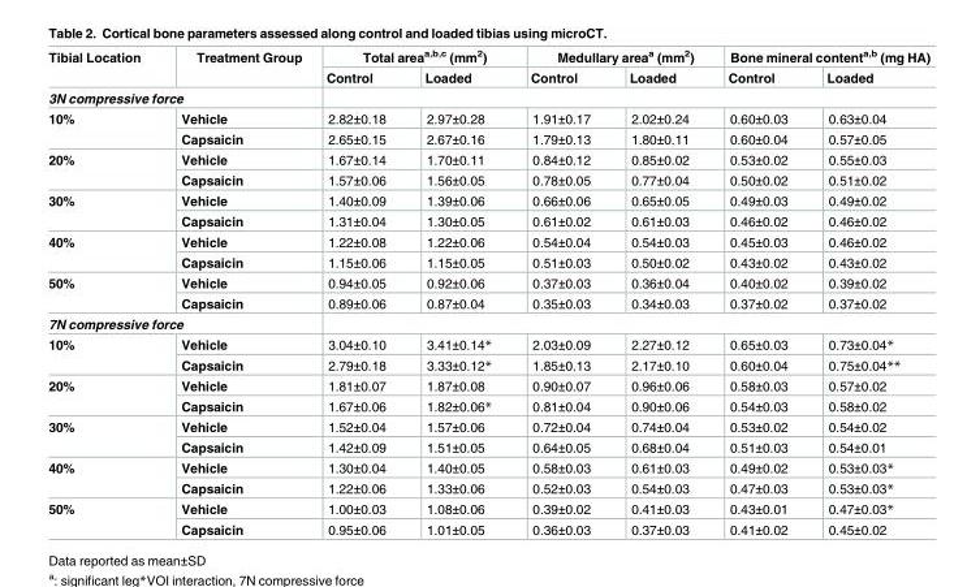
<table><thead><tr><td rowspan="2">Tibial Location</td><td rowspan="2">Treatment Group</td><td colspan="2">Total area<sup>a,b,c</sup> (mm<sup>2</sup>)</td><td colspan="2">Medullary area<sup>a</sup> (mm<sup>2</sup>)</td><td colspan="2">Bone mineral content<sup>a,b</sup> (mg HA)</td></tr><tr><td>Control</td><td>Loaded</td><td>Control</td><td>Loaded</td><td>Control</td><td>Loaded</td></tr></thead><tbody><tr><td colspan="8">3N compressive force</td></tr><tr><td rowspan="2">10%</td><td>Vehicle</td><td>2.82±0.18</td><td>2.97±0.28</td><td>1.91±0.17</td><td>2.02±0.24</td><td>0.60±0.03</td><td>0.63±0.04</td></tr><tr><td>Capsaicin</td><td>2.65±0.15</td><td>2.67±0.16</td><td>1.79±0.13</td><td>1.80±0.11</td><td>0.60±0.04</td><td>0.57±0.05</td></tr><tr><td rowspan="2">20%</td><td>Vehicle</td><td>1.67±0.14</td><td>1.70±0.11</td><td>0.84±0.12</td><td>0.85±0.02</td><td>0.53±0.02</td><td>0.55±0.03</td></tr><tr><td>Capsaicin</td><td>1.57±0.06</td><td>1.56±0.05</td><td>0.78±0.05</td><td>0.77±0.04</td><td>0.50±0.02</td><td>0.51±0.02</td></tr><tr><td rowspan="2">30%</td><td>Vehicle</td><td>1.40±0.09</td><td>1.39±0.06</td><td>0.66±0.06</td><td>0.65±0.05</td><td>0.49±0.03</td><td>0.49±0.02</td></tr><tr><td>Capsaicin</td><td>1.31±0.04</td><td>1.30±0.05</td><td>0.61±0.02</td><td>0.61±0.03</td><td>0.46±0.02</td><td>0.46±0.02</td></tr><tr><td rowspan="2">40%</td><td>Vehicle</td><td>1.22±0.08</td><td>1.22±0.06</td><td>0.54±0.04</td><td>0.54±0.03</td><td>0.45±0.03</td><td>0.46±0.02</td></tr><tr><td>Capsaicin</td><td>1.15±0.06</td><td>1.15±0.05</td><td>0.51±0.03</td><td>0.50±0.02</td><td>0.43±0.02</td><td>0.43±0.02</td></tr><tr><td rowspan="2">50%</td><td>Vehicle</td><td>0.94±0.05</td><td>0.92±0.06</td><td>0.37±0.03</td><td>0.36±0.04</td><td>0.40±0.02</td><td>0.39±0.02</td></tr><tr><td>Capsaicin</td><td>0.89±0.06</td><td>0.87±0.04</td><td>0.35±0.03</td><td>0.34±0.03</td><td>0.37±0.02</td><td>0.37±0.02</td></tr><tr><td colspan="8">7N compressive force</td></tr><tr><td rowspan="2">10%</td><td>Vehicle</td><td>3.04±0.10</td><td>3.41±0.14*</td><td>2.03±0.09</td><td>2.27±0.12</td><td>0.65±0.03</td><td>0.73±0.04*</td></tr><tr><td>Capsaicin</td><td>2.79±0.18</td><td>3.33±0.12*</td><td>1.85±0.13</td><td>2.17±0.10</td><td>0.60±0.04</td><td>0.75±0.04**</td></tr><tr><td rowspan="2">20%</td><td>Vehicle</td><td>1.81±0.07</td><td>1.87±0.08</td><td>0.90±0.07</td><td>0.96±0.06</td><td>0.58±0.03</td><td>0.57±0.02</td></tr><tr><td>Capsaicin</td><td>1.67±0.06</td><td>1.82±0.06*</td><td>0.81±0.04</td><td>0.90±0.06</td><td>0.54±0.03</td><td>0.58±0.02</td></tr><tr><td rowspan="2">30%</td><td>Vehicle</td><td>1.52±0.04</td><td>1.57±0.06</td><td>0.72±0.04</td><td>0.74±0.04</td><td>0.53±0.02</td><td>0.54±0.02</td></tr><tr><td>Capsaicin</td><td>1.42±0.09</td><td>1.51±0.05</td><td>0.64±0.05</td><td>0.68±0.04</td><td>0.51±0.03</td><td>0.54±0.01</td></tr><tr><td rowspan="2">40%</td><td>Vehicle</td><td>1.30±0.04</td><td>1.40±0.05</td><td>0.58±0.03</td><td>0.61±0.03</td><td>0.49±0.02</td><td>0.53±0.03*</td></tr><tr><td>Capsaicin</td><td>1.22±0.06</td><td>1.33±0.06</td><td>0.52±0.03</td><td>0.54±0.03</td><td>0.47±0.03</td><td>0.53±0.03*</td></tr><tr><td rowspan="2">50%</td><td>Vehicle</td><td>1.00±0.03</td><td>1.08±0.06</td><td>0.39±0.02</td><td>0.41±0.03</td><td>0.43±0.01</td><td>0.47±0.03*</td></tr><tr><td>Capsaicin</td><td>0.95±0.06</td><td>1.01±0.05</td><td>0.36±0.03</td><td>0.37±0.03</td><td>0.41±0.02</td><td>0.45±0.02</td></tr></tbody></table>